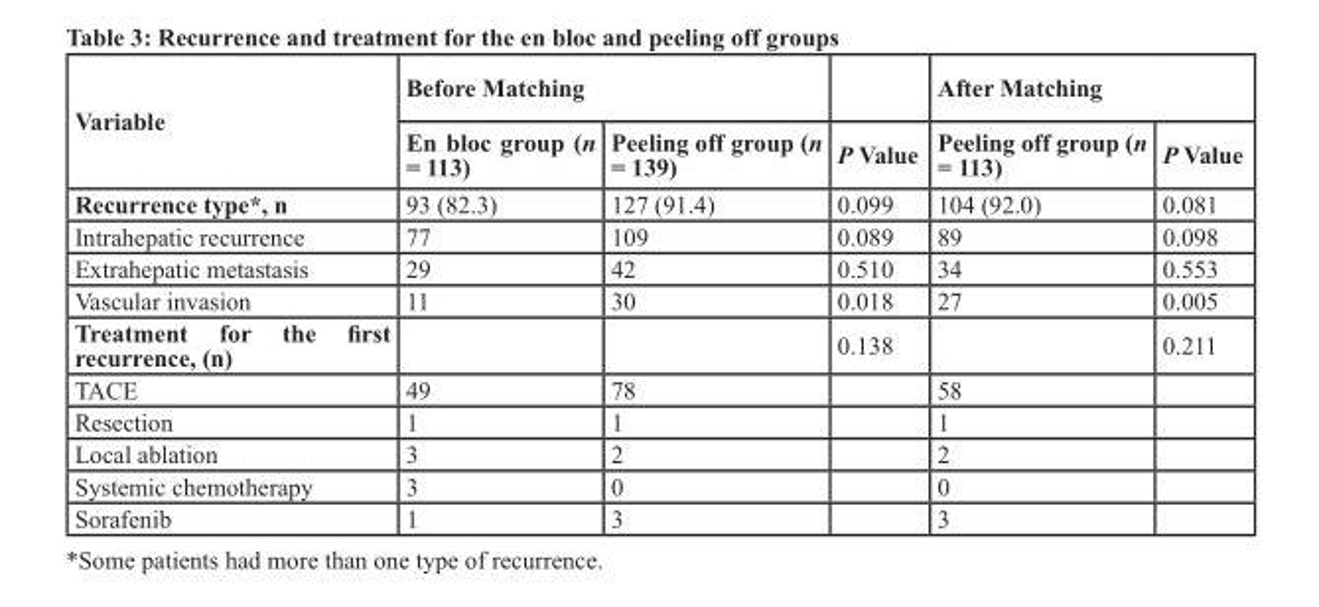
<table><thead><tr><td rowspan="2">Variable</td><td colspan="2">Before Matching</td><td rowspan="2">P Value</td><td colspan="2">After Matching</td></tr><tr><td>En bloc group (n = 113)</td><td>Peeling off group (n = 139)</td><td>Peeling off group (n = 113)</td><td>P Value</td></tr></thead><tbody><tr><td>Recurrence type*, n</td><td>93 (82.3)</td><td>127 (91.4)</td><td>0.099</td><td>104 (92.0)</td><td>0.081</td></tr><tr><td>Intrahepatic recurrence</td><td>77</td><td>109</td><td>0.089</td><td>89</td><td>0.098</td></tr><tr><td>Extrahepatic metastasis</td><td>29</td><td>42</td><td>0.510</td><td>34</td><td>0.553</td></tr><tr><td>Vascular invasion</td><td>11</td><td>30</td><td>0.018</td><td>27</td><td>0.005</td></tr><tr><td>Treatment for the first recurrence, (n)</td><td></td><td></td><td>0.138</td><td></td><td>0.211</td></tr><tr><td>TACE</td><td>49</td><td>78</td><td></td><td>58</td><td></td></tr><tr><td>Resection</td><td>1</td><td>1</td><td></td><td>1</td><td></td></tr><tr><td>Local ablation</td><td>3</td><td>2</td><td></td><td>2</td><td></td></tr><tr><td>Systemic chemotherapy</td><td>3</td><td>0</td><td></td><td>0</td><td></td></tr><tr><td>Sorafenib</td><td>1</td><td>3</td><td></td><td>3</td><td></td></tr></tbody></table>